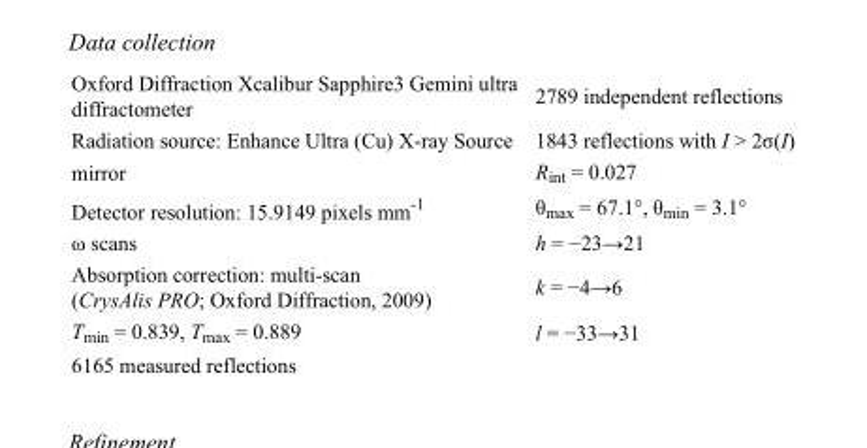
<table><tbody><tr><td>Oxford Diffraction Xcalibur Sapphire3 Gemini ultra diffractometer</td><td>2789 independent reflections</td></tr><tr><td>Radiation source: Enhance Ultra (Cu) X-ray Source</td><td>1843 reflections with I &gt; 2σ(I)</td></tr><tr><td>mirror</td><td>R<sub>int</sub> = 0.027</td></tr><tr><td>Detector resolution: 15.9149 pixels mm<sup>-1</sup></td><td>θ<sub>max</sub> = 67.1°, θ<sub>min</sub> = 3.1°</td></tr><tr><td>ω scans</td><td>h = −23→21</td></tr><tr><td>Absorption correction: multi-scan (CrysAlis PRO; Oxford Diffraction, 2009)</td><td>k = −4→6</td></tr><tr><td>T<sub>min</sub> = 0.839, T<sub>max</sub> = 0.889</td><td>l = −33→31</td></tr><tr><td>6165 measured reflections</td><td></td></tr></tbody></table>